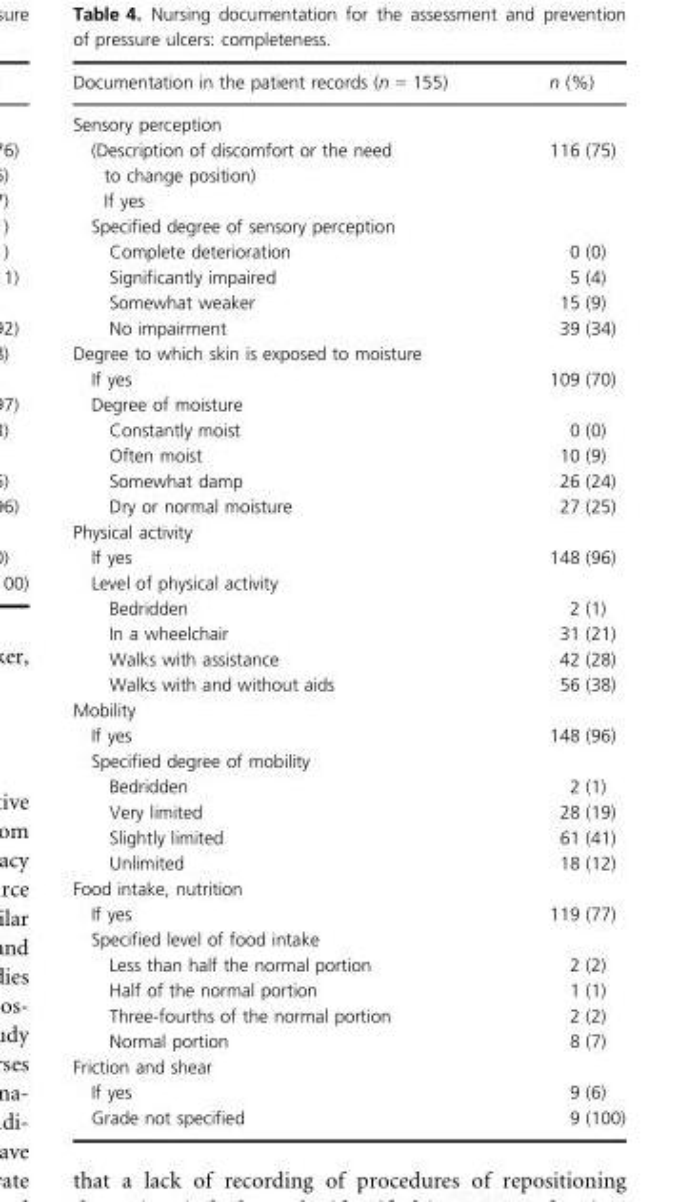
<table><thead><tr><td>Documentation in the patient records (n = 155)</td><td>n (%)</td></tr></thead><tbody><tr><td colspan="2">Sensory perception</td></tr><tr><td>(Description of discomfort or the need to change position) If yes</td><td>116 (75)</td></tr><tr><td colspan="2">Specified degree of sensory perception</td></tr><tr><td>Complete deterioration</td><td>0 (0)</td></tr><tr><td>Significantly impaired</td><td>5 (4)</td></tr><tr><td>Somewhat weaker</td><td>15 (9)</td></tr><tr><td>No impairment</td><td>39 (34)</td></tr><tr><td colspan="2">Degree to which skin is exposed to moisture</td></tr><tr><td>If yes</td><td>109 (70)</td></tr><tr><td colspan="2">Degree of moisture</td></tr><tr><td>Constantly moist</td><td>0 (0)</td></tr><tr><td>Often moist</td><td>10 (9)</td></tr><tr><td>Somewhat damp</td><td>26 (24)</td></tr><tr><td>Dry or normal moisture</td><td>27 (25)</td></tr><tr><td colspan="2">Physical activity</td></tr><tr><td>If yes</td><td>148 (96)</td></tr><tr><td colspan="2">Level of physical activity</td></tr><tr><td>Bedridden</td><td>2 (1)</td></tr><tr><td>In a wheelchair</td><td>31 (21)</td></tr><tr><td>Walks with assistance</td><td>42 (28)</td></tr><tr><td>Walks with and without aids</td><td>56 (38)</td></tr><tr><td colspan="2">Mobility</td></tr><tr><td>If yes</td><td>148 (96)</td></tr><tr><td colspan="2">Specified degree of mobility</td></tr><tr><td>Bedridden</td><td>2 (1)</td></tr><tr><td>Very limited</td><td>28 (19)</td></tr><tr><td>Slightly limited</td><td>61 (41)</td></tr><tr><td>Unlimited</td><td>18 (12)</td></tr><tr><td colspan="2">Food intake, nutrition</td></tr><tr><td>If yes</td><td>119 (77)</td></tr><tr><td colspan="2">Specified level of food intake</td></tr><tr><td>Less than half the normal portion</td><td>2 (2)</td></tr><tr><td>Half of the normal portion</td><td>1 (1)</td></tr><tr><td>Three-fourths of the normal portion</td><td>2 (2)</td></tr><tr><td>Normal portion</td><td>8 (7)</td></tr><tr><td colspan="2">Friction and shear</td></tr><tr><td>If yes</td><td>9 (6)</td></tr><tr><td>Grade not specified</td><td>9 (100)</td></tr></tbody></table>